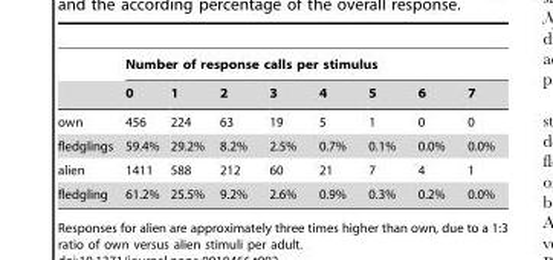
<table><thead><tr><td rowspan="2"></td><td colspan="8">Number of response calls per stimulus</td></tr><tr><td>0</td><td>1</td><td>2</td><td>3</td><td>4</td><td>5</td><td>6</td><td>7</td></tr></thead><tbody><tr><td>own</td><td>456</td><td>224</td><td>63</td><td>19</td><td>5</td><td>1</td><td>0</td><td>0</td></tr><tr><td>fledglings</td><td>59.4%</td><td>29.2%</td><td>8.2%</td><td>2.5%</td><td>0.7%</td><td>0.1%</td><td>0.0%</td><td>0.0%</td></tr><tr><td>alien</td><td>1411</td><td>588</td><td>212</td><td>60</td><td>21</td><td>7</td><td>4</td><td>1</td></tr><tr><td>fledgling</td><td>61.2%</td><td>25.5%</td><td>9.2%</td><td>2.6%</td><td>0.9%</td><td>0.3%</td><td>0.2%</td><td>0.0%</td></tr></tbody></table>